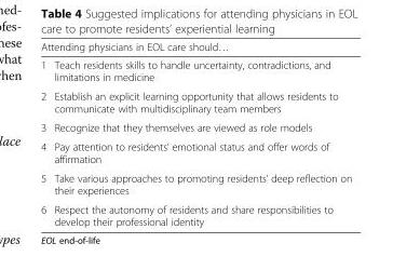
<table><thead><tr><td colspan="2">Attending physicians in EOL care should…</td></tr><tr><td>1</td><td>Teach residents skills to handle uncertainty, contradictions, and limitations in medicine</td></tr></thead><tbody><tr><td>2</td><td>Establish an explicit learning opportunity that allows residents to communicate with multidisciplinary team members</td></tr><tr><td>3</td><td>Recognize that they themselves are viewed as role models</td></tr><tr><td>4</td><td>Pay attention to residents’ emotional status and offer words of affirmation</td></tr><tr><td>5</td><td>Take various approaches to promoting residents’ deep reflection on their experiences</td></tr><tr><td>6</td><td>Respect the autonomy of residents and share responsibilities to develop their professional identity</td></tr></tbody></table>